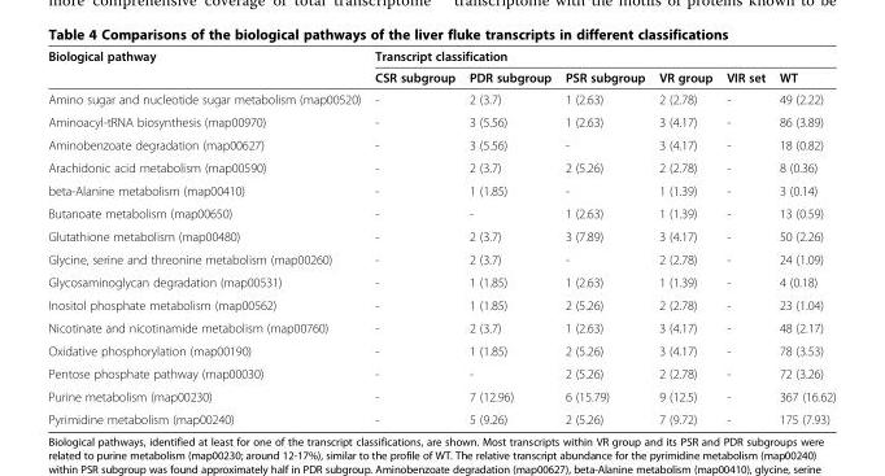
<table><thead><tr><td rowspan="2">Biological pathway</td><td colspan="6">Transcript classification</td></tr><tr><td>CSR subgroup</td><td>PDR subgroup</td><td>PSR subgroup</td><td>VR group</td><td>VIR set</td><td>WT</td></tr></thead><tbody><tr><td>Amino sugar and nucleotide sugar metabolism (map00520)</td><td>-</td><td>2 (3.7)</td><td>1 (2.63)</td><td>2 (2.78)</td><td>-</td><td>49 (2.22)</td></tr><tr><td>Aminoacyl-tRNA biosynthesis (map00970)</td><td>-</td><td>3 (5.56)</td><td>1 (2.63)</td><td>3 (4.17)</td><td>-</td><td>86 (3.89)</td></tr><tr><td>Aminobenzoate degradation (map00627)</td><td>-</td><td>3 (5.56)</td><td>-</td><td>3 (4.17)</td><td>-</td><td>18 (0.82)</td></tr><tr><td>Arachidonic acid metabolism (map00590)</td><td>-</td><td>2 (3.7)</td><td>2 (5.26)</td><td>2 (2.78)</td><td>-</td><td>8 (0.36)</td></tr><tr><td>beta-Alanine metabolism (map00410)</td><td>-</td><td>1 (1.85)</td><td>-</td><td>1 (1.39)</td><td>-</td><td>3 (0.14)</td></tr><tr><td>Butanoate metabolism (map00650)</td><td>-</td><td>-</td><td>1 (2.63)</td><td>1 (1.39)</td><td>-</td><td>13 (0.59)</td></tr><tr><td>Glutathione metabolism (map00480)</td><td>-</td><td>2 (3.7)</td><td>3 (7.89)</td><td>3 (4.17)</td><td>-</td><td>50 (2.26)</td></tr><tr><td>Glycine, serine and threonine metabolism (map00260)</td><td>-</td><td>2 (3.7)</td><td>-</td><td>2 (2.78)</td><td>-</td><td>24 (1.09)</td></tr><tr><td>Glycosaminoglycan degradation (map00531)</td><td>-</td><td>1 (1.85)</td><td>1 (2.63)</td><td>1 (1.39)</td><td>-</td><td>4 (0.18)</td></tr><tr><td>Inositol phosphate metabolism (map00562)</td><td>-</td><td>1 (1.85)</td><td>2 (5.26)</td><td>2 (2.78)</td><td>-</td><td>23 (1.04)</td></tr><tr><td>Nicotinate and nicotinamide metabolism (map00760)</td><td>-</td><td>2 (3.7)</td><td>1 (2.63)</td><td>3 (4.17)</td><td>-</td><td>48 (2.17)</td></tr><tr><td>Oxidative phosphorylation (map00190)</td><td>-</td><td>1 (1.85)</td><td>2 (5.26)</td><td>3 (4.17)</td><td>-</td><td>78 (3.53)</td></tr><tr><td>Pentose phosphate pathway (map00030)</td><td>-</td><td>-</td><td>2 (5.26)</td><td>2 (2.78)</td><td>-</td><td>72 (3.26)</td></tr><tr><td>Purine metabolism (map00230)</td><td>-</td><td>7 (12.96)</td><td>6 (15.79)</td><td>9 (12.5)</td><td>-</td><td>367 (16.62)</td></tr><tr><td>Pyrimidine metabolism (map00240)</td><td>-</td><td>5 (9.26)</td><td>2 (5.26)</td><td>7 (9.72)</td><td>-</td><td>175 (7.93)</td></tr></tbody></table>